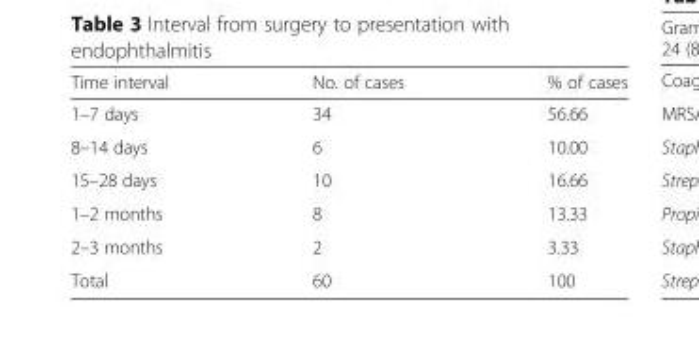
<table><thead><tr><td>Time interval</td><td>No. of cases</td><td>% of cases</td></tr></thead><tbody><tr><td>1–7 days</td><td>34</td><td>56.66</td></tr><tr><td>8–14 days</td><td>6</td><td>10.00</td></tr><tr><td>15–28 days</td><td>10</td><td>16.66</td></tr><tr><td>1–2 months</td><td>8</td><td>13.33</td></tr><tr><td>2–3 months</td><td>2</td><td>3.33</td></tr><tr><td>Total</td><td>60</td><td>100</td></tr></tbody></table>